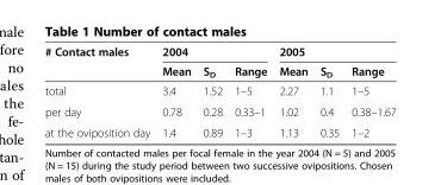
<table><thead><tr><td rowspan="2"># Contact males</td><td colspan="3">2004</td><td colspan="3">2005</td></tr><tr><td>Mean</td><td>S<sub>D</sub></td><td>Range</td><td>Mean</td><td>S<sub>D</sub></td><td>Range</td></tr></thead><tbody><tr><td>total</td><td>3.4</td><td>1.52</td><td>1–5</td><td>2.27</td><td>1.1</td><td>1–5</td></tr><tr><td>per day</td><td>0.78</td><td>0.28</td><td>0.33–1</td><td>1.02</td><td>0.4</td><td>0.38–1.67</td></tr><tr><td>at the oviposition day</td><td>1.4</td><td>0.89</td><td>1–3</td><td>1.13</td><td>0.35</td><td>1–2</td></tr></tbody></table>